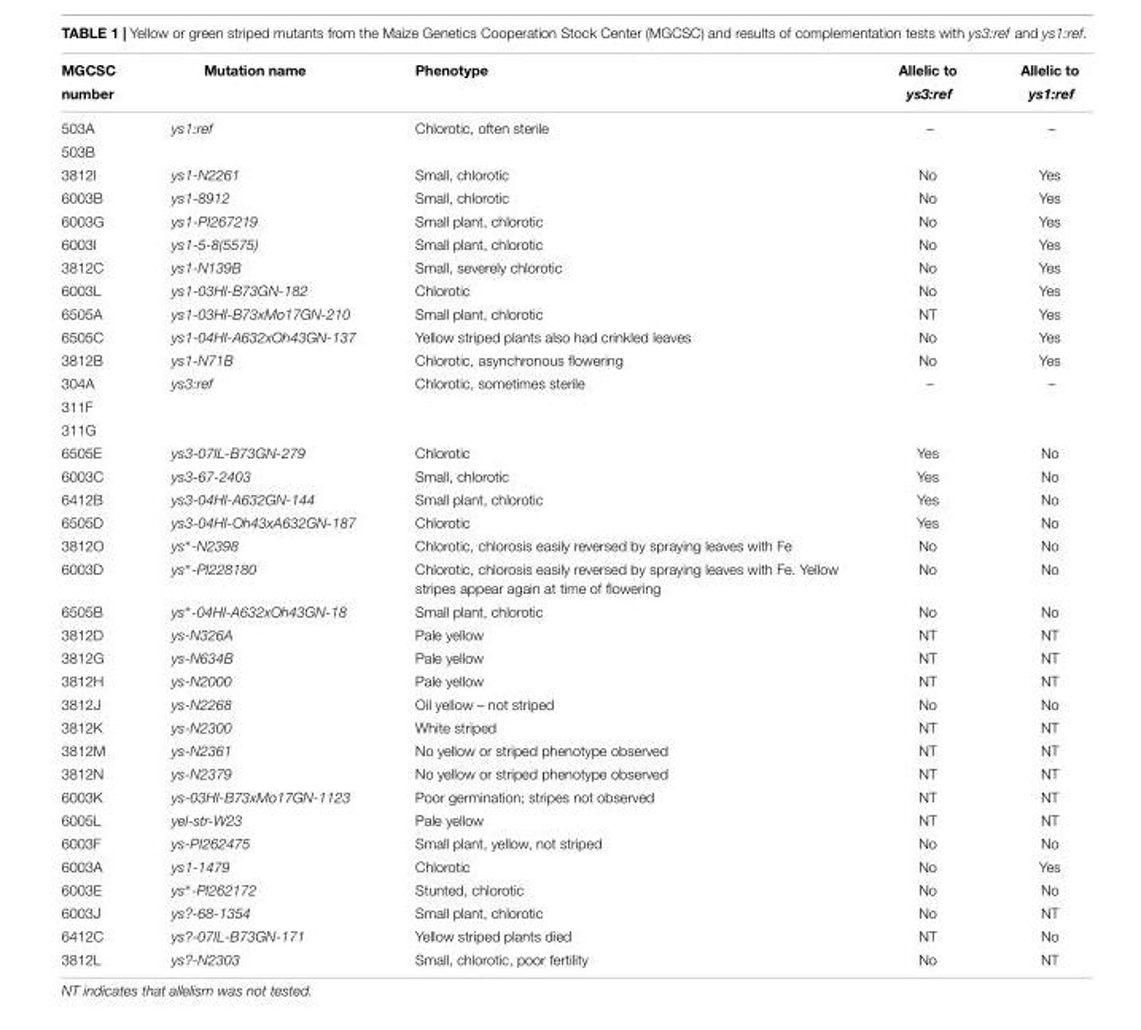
<table><thead><tr><td rowspan="2">MGCSC number</td><td rowspan="2">Mutation name</td><td rowspan="2">Phenotype</td><td rowspan="2">Allelic to ys3:ref</td><td rowspan="2">Allelic to ys1:ref</td></tr><tr></tr></thead><tbody><tr><td>503A</td><td>ys1:ref</td><td>Chlorotic, often sterile</td><td>–</td><td>–</td></tr><tr><td colspan="5">503B</td></tr><tr><td>3812I</td><td>ys1-N2261</td><td>Small, chlorotic</td><td>No</td><td>Yes</td></tr><tr><td>6003B</td><td>ys1-8912</td><td>Small, chlorotic</td><td>No</td><td>Yes</td></tr><tr><td>6003G</td><td>ys1-PI267219</td><td>Small plant, chlorotic</td><td>No</td><td>Yes</td></tr><tr><td>6003I</td><td>ys1-5-8(5575)</td><td>Small plant, chlorotic</td><td>No</td><td>Yes</td></tr><tr><td>3812C</td><td>ys1-N139B</td><td>Small, severely chlorotic</td><td>No</td><td>Yes</td></tr><tr><td>6003L</td><td>ys1-03HI-B73GN-182</td><td>Chlorotic</td><td>No</td><td>Yes</td></tr><tr><td>6505A</td><td>ys1-03HI-B73xMo17GN-210</td><td>Small plant, chlorotic</td><td>NT</td><td>Yes</td></tr><tr><td>6505C</td><td>ys1-04HI-A632xOh43GN-137</td><td>Yellow striped plants also had crinkled leaves</td><td>No</td><td>Yes</td></tr><tr><td>3812B</td><td>ys1-N71B</td><td>Chlorotic, asynchronous flowering</td><td>No</td><td>Yes</td></tr><tr><td>304A</td><td>ys3:ref</td><td>Chlorotic, sometimes sterile</td><td>–</td><td>–</td></tr><tr><td colspan="5">311F</td></tr><tr><td colspan="5">311G</td></tr><tr><td>6505E</td><td>ys3-07IL-B73GN-279</td><td>Chlorotic</td><td>Yes</td><td>No</td></tr><tr><td>6003C</td><td>ys3-67-2403</td><td>Small, chlorotic</td><td>Yes</td><td>No</td></tr><tr><td>6412B</td><td>ys3-04HI-A632GN-144</td><td>Small plant, chlorotic</td><td>Yes</td><td>No</td></tr><tr><td>6505D</td><td>ys3-04HI-Oh43xA632GN-187</td><td>Chlorotic</td><td>Yes</td><td>No</td></tr><tr><td>3812O</td><td>ys∗-N2398</td><td>Chlorotic, chlorosis easily reversed by spraying leaves with Fe</td><td>No</td><td>No</td></tr><tr><td>6003D</td><td>ys∗-PI228180</td><td>Chlorotic, chlorosis easily reversed by spraying leaves with Fe. Yellow stripes appear again at time of flowering</td><td>No</td><td>No</td></tr><tr><td>6505B</td><td>ys∗-04HI-A632xOh43GN-18</td><td>Small plant, chlorotic</td><td>No</td><td>No</td></tr><tr><td>3812D</td><td>ys-N326A</td><td>Pale yellow</td><td>NT</td><td>NT</td></tr><tr><td>3812G</td><td>ys-N634B</td><td>Pale yellow</td><td>NT</td><td>NT</td></tr><tr><td>3812H</td><td>ys-N2000</td><td>Pale yellow</td><td>NT</td><td>NT</td></tr><tr><td>3812J</td><td>ys-N2268</td><td>Oil yellow – not striped</td><td>No</td><td>No</td></tr><tr><td>3812K</td><td>ys-N2300</td><td>White striped</td><td>NT</td><td>NT</td></tr><tr><td>3812M</td><td>ys-N2361</td><td>No yellow or striped phenotype observed</td><td>NT</td><td>NT</td></tr><tr><td>3812N</td><td>ys-N2379</td><td>No yellow or striped phenotype observed</td><td>NT</td><td>NT</td></tr><tr><td>6003K</td><td>ys-03HI-B73xMo17GN-1123</td><td>Poor germination; stripes not observed</td><td>NT</td><td>NT</td></tr><tr><td>6005L</td><td>yel-str-W23</td><td>Pale yellow</td><td>NT</td><td>NT</td></tr><tr><td>6003F</td><td>ys-PI262475</td><td>Small plant, yellow, not striped</td><td>No</td><td>No</td></tr><tr><td>6003A</td><td>ys1-1479</td><td>Chlorotic</td><td>No</td><td>Yes</td></tr><tr><td>6003E</td><td>ys∗-PI262172</td><td>Stunted, chlorotic</td><td>No</td><td>No</td></tr><tr><td>6003J</td><td>ys?-68-1354</td><td>Small plant, chlorotic</td><td>No</td><td>NT</td></tr><tr><td>6412C</td><td>ys?-07IL-B73GN-171</td><td>Yellow striped plants died</td><td>NT</td><td>No</td></tr><tr><td>3812L</td><td>ys?-N2303</td><td>Small, chlorotic, poor fertility</td><td>No</td><td>NT</td></tr></tbody></table>